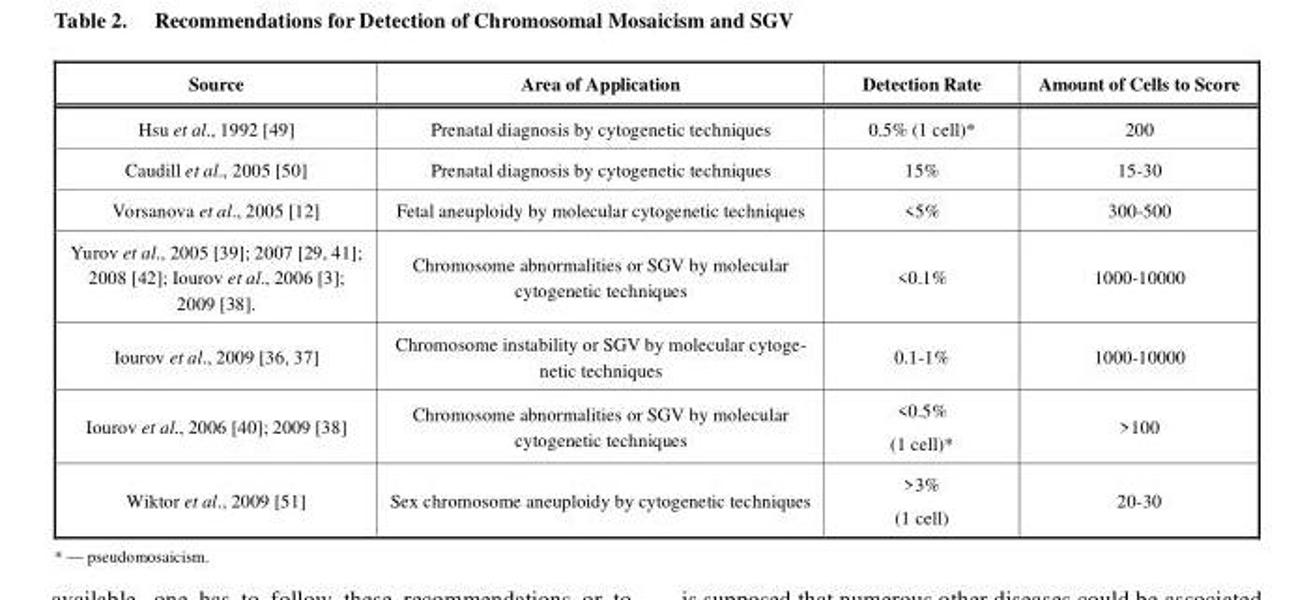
<table><thead><tr><td>Source</td><td>Area of Application</td><td>Detection Rate</td><td>Amount of Cells to Score</td></tr></thead><tbody><tr><td>Hsu et al., 1992 [49]</td><td>Prenatal diagnosis by cytogenetic techniques</td><td>0.5% (1 cell)*</td><td>200</td></tr><tr><td>Caudill et al., 2005 [50]</td><td>Prenatal diagnosis by cytogenetic techniques</td><td>15%</td><td>15-30</td></tr><tr><td>Vorsanova et al., 2005 [12]</td><td>Fetal aneuploidy by molecular cytogenetic techniques</td><td>&lt;5%</td><td>300-500</td></tr><tr><td>Yurov et al., 2005 [39]; 2007 [29, 41]; 2008 [42]; Iourov et al., 2006 [3]; 2009 [38].</td><td>Chromosome abnormalities or SGV by molecular cytogenetic techniques</td><td>&lt;0.1%</td><td>1000-10000</td></tr><tr><td>Iourov et al., 2009 [36, 37]</td><td>Chromosome instability or SGV by molecular cytoge- netic techniques</td><td>0.1-1%</td><td>1000-10000</td></tr><tr><td>Iourov et al., 2006 [40]; 2009 [38]</td><td>Chromosome abnormalities or SGV by molecular cytogenetic techniques</td><td>&lt;0.5% (1 cell)*</td><td>&gt;100</td></tr><tr><td>Wiktor et al., 2009 [51]</td><td>Sex chromosome aneuploidy by cytogenetic techniques</td><td>&gt;3% (1 cell)</td><td>20-30</td></tr></tbody></table>